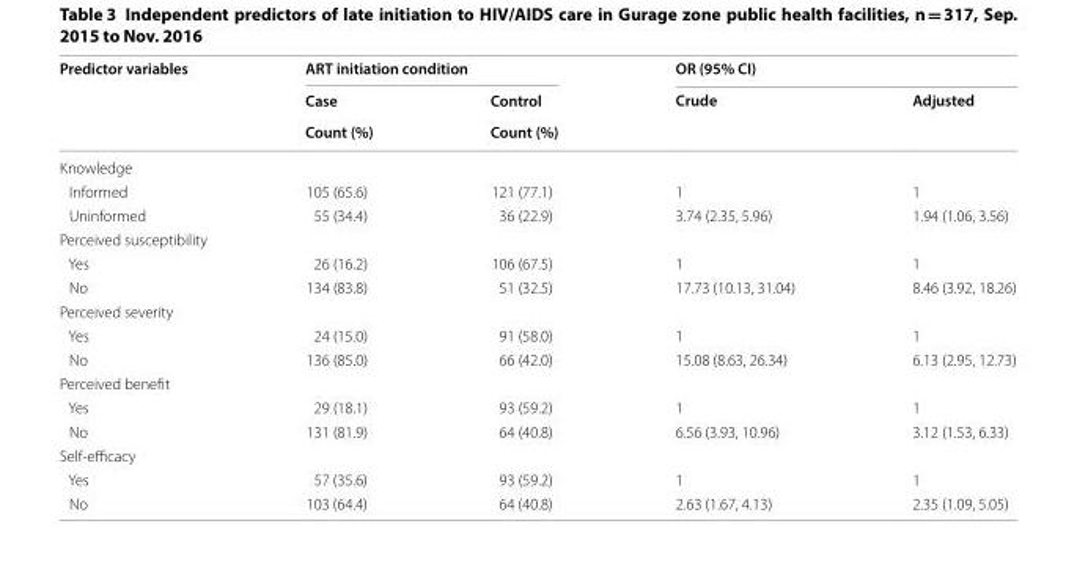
<table><thead><tr><td rowspan="3">Predictor variables</td><td colspan="2">ART initiation condition</td><td colspan="2">OR (95% CI)</td></tr><tr><td rowspan="2">Case Count (%)</td><td rowspan="2">Control Count (%)</td><td rowspan="2">Crude</td><td rowspan="2">Adjusted</td></tr><tr></tr></thead><tbody><tr><td colspan="5">Knowledge</td></tr><tr><td>Informed</td><td>105 (65.6)</td><td>121 (77.1)</td><td>1</td><td>1</td></tr><tr><td>Uninformed</td><td>55 (34.4)</td><td>36 (22.9)</td><td>3.74 (2.35, 5.96)</td><td>1.94 (1.06, 3.56)</td></tr><tr><td colspan="5">Perceived susceptibility</td></tr><tr><td>Yes</td><td>26 (16.2)</td><td>106 (67.5)</td><td>1</td><td>1</td></tr><tr><td>No</td><td>134 (83.8)</td><td>51 (32.5)</td><td>17.73 (10.13, 31.04)</td><td>8.46 (3.92, 18.26)</td></tr><tr><td colspan="5">Perceived severity</td></tr><tr><td>Yes</td><td>24 (15.0)</td><td>91 (58.0)</td><td>1</td><td>1</td></tr><tr><td>No</td><td>136 (85.0)</td><td>66 (42.0)</td><td>15.08 (8.63, 26.34)</td><td>6.13 (2.95, 12.73)</td></tr><tr><td colspan="5">Perceived benefit</td></tr><tr><td>Yes</td><td>29 (18.1)</td><td>93 (59.2)</td><td>1</td><td>1</td></tr><tr><td>No</td><td>131 (81.9)</td><td>64 (40.8)</td><td>6.56 (3.93, 10.96)</td><td>3.12 (1.53, 6.33)</td></tr><tr><td colspan="5">Self-efficacy</td></tr><tr><td>Yes</td><td>57 (35.6)</td><td>93 (59.2)</td><td>1</td><td>1</td></tr><tr><td>No</td><td>103 (64.4)</td><td>64 (40.8)</td><td>2.63 (1.67, 4.13)</td><td>2.35 (1.09, 5.05)</td></tr></tbody></table>